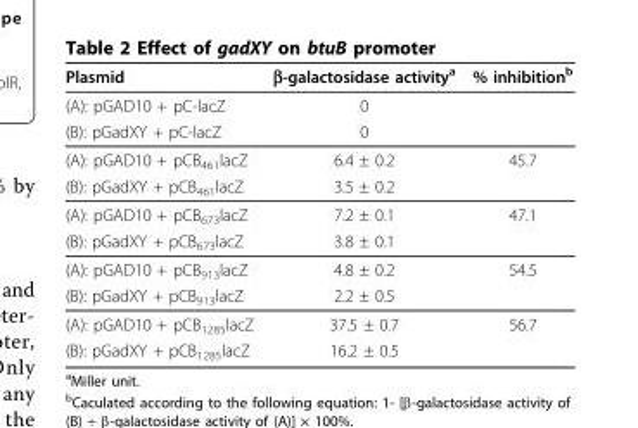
<table><thead><tr><td>Plasmid</td><td>β-galactosidase activity<sup>a</sup></td><td>% inhibition<sup>b</sup></td></tr></thead><tbody><tr><td>(A): pGAD10 + pC-lacZ</td><td>0</td><td></td></tr><tr><td>(B): pGadXY + pC-lacZ</td><td>0</td><td></td></tr><tr><td>(A): pGAD10 + pCB<sub>461</sub>lacZ</td><td>6.4 ± 0.2</td><td>45.7</td></tr><tr><td>(B): pGadXY + pCB<sub>461</sub>lacZ</td><td>3.5 ± 0.2</td><td></td></tr><tr><td>(A): pGAD10 + pCB<sub>673</sub>lacZ</td><td>7.2 ± 0.1</td><td>47.1</td></tr><tr><td>(B): pGadXY + pCB<sub>673</sub>lacZ</td><td>3.8 ± 0.1</td><td></td></tr><tr><td>(A): pGAD10 + pCB<sub>913</sub>lacZ</td><td>4.8 ± 0.2</td><td>54.5</td></tr><tr><td>(B): pGadXY + pCB<sub>913</sub>lacZ</td><td>2.2 ± 0.5</td><td></td></tr><tr><td>(A): pGAD10 + pCB<sub>1285</sub>lacZ</td><td>37.5 ± 0.7</td><td>56.7</td></tr><tr><td>(B): pGadXY + pCB<sub>1285</sub>lacZ</td><td>16.2 ± 0.5</td><td></td></tr></tbody></table>